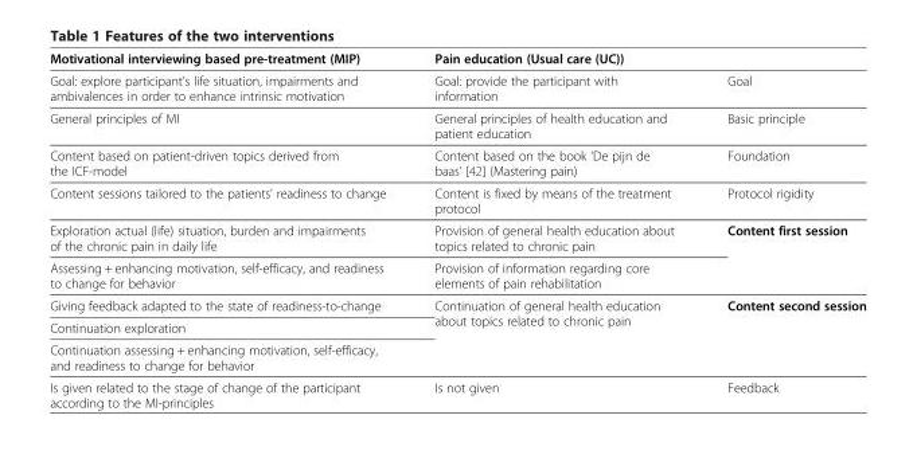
<table><thead><tr><td>Motivational interviewing based pre-treatment (MIP)</td><td>Pain education (Usual care (UC))</td><td></td></tr></thead><tbody><tr><td>Goal: explore participant’s life situation, impairments and ambivalences in order to enhance intrinsic motivation</td><td>Goal: provide the participant with information</td><td>Goal</td></tr><tr><td>General principles of MI</td><td>General principles of health education and patient education</td><td>Basic principle</td></tr><tr><td>Content based on patient-driven topics derived from the ICF-model</td><td>Content based on the book ‘De pijn de baas’ [42] (Mastering pain)</td><td>Foundation</td></tr><tr><td>Content sessions tailored to the patients’ readiness to change</td><td>Content is fixed by means of the treatment protocol</td><td>Protocol rigidity</td></tr><tr><td>Exploration actual (life) situation, burden and impairments of the chronic pain in daily life</td><td>Provision of general health education about topics related to chronic pain</td><td rowspan="2">Content first session</td></tr><tr><td>Assessing + enhancing motivation, self-efficacy, and readiness to change for behavior</td><td>Provision of information regarding core elements of pain rehabilitation</td></tr><tr><td>Giving feedback adapted to the state of readiness-to-change</td><td rowspan="3">Continuation of general health education about topics related to chronic pain</td><td rowspan="3">Content second session</td></tr><tr><td>Continuation exploration</td></tr><tr><td>Continuation assessing + enhancing motivation, self-efficacy, and readiness to change for behavior</td></tr><tr><td>Is given related to the stage of change of the participant according to the MI-principles</td><td>Is not given</td><td>Feedback</td></tr></tbody></table>